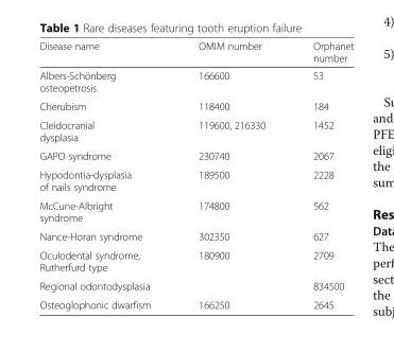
<table><thead><tr><td>Disease name</td><td>OMIM number</td><td>Orphanet number</td></tr></thead><tbody><tr><td>Albers-Schönberg osteopetrosis</td><td>166600</td><td>53</td></tr><tr><td>Cherubism</td><td>118400</td><td>184</td></tr><tr><td>Cleidocranial dysplasia</td><td>119600, 216330</td><td>1452</td></tr><tr><td>GAPO syndrome</td><td>230740</td><td>2067</td></tr><tr><td>Hypodontia-dysplasia of nails syndrome</td><td>189500</td><td>2228</td></tr><tr><td>McCune-Albright syndrome</td><td>174800</td><td>562</td></tr><tr><td>Nance-Horan syndrome</td><td>302350</td><td>627</td></tr><tr><td>Oculodental syndrome, Rutherfurd type</td><td>180900</td><td>2709</td></tr><tr><td>Regional odontodysplasia</td><td></td><td>834500</td></tr><tr><td>Osteoglophonic dwarfism</td><td>166250</td><td>2645</td></tr></tbody></table>